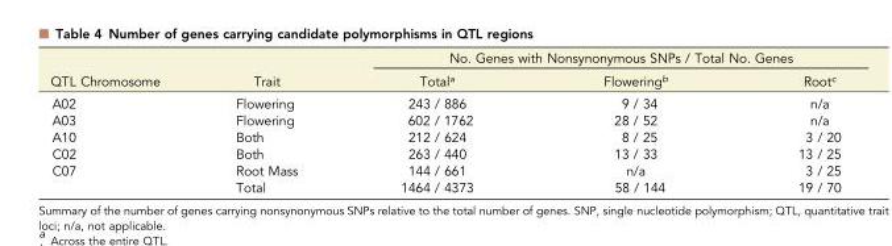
<table><thead><tr><td rowspan="2">QTL Chromosome</td><td rowspan="2">Trait</td><td colspan="3">No. Genes with Nonsynonymous SNPs / Total No. Genes</td></tr><tr><td>Total<sup>a</sup></td><td>Flowering<sup>b</sup></td><td>Root<sup>c</sup></td></tr></thead><tbody><tr><td>A02</td><td>Flowering</td><td>243 / 886</td><td>9 / 34</td><td>n/a</td></tr><tr><td>A03</td><td>Flowering</td><td>602 / 1762</td><td>28 / 52</td><td>n/a</td></tr><tr><td>A10</td><td>Both</td><td>212 / 624</td><td>8 / 25</td><td>3 / 20</td></tr><tr><td>C02</td><td>Both</td><td>263 / 440</td><td>13 / 33</td><td>13 / 25</td></tr><tr><td rowspan="2">C07</td><td>Root Mass</td><td>144 / 661</td><td>n/a</td><td>3 / 25</td></tr><tr><td>Total</td><td>1464 / 4373</td><td>58 / 144</td><td>19 / 70</td></tr></tbody></table>